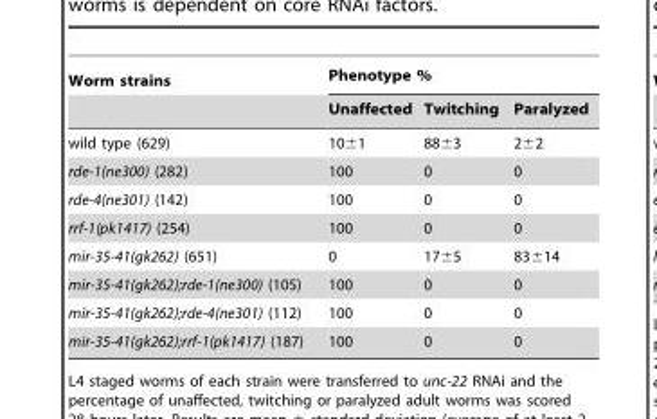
<table><thead><tr><td rowspan="2">Worm strains</td><td colspan="3">Phenotype %</td></tr><tr><td>Unaffected</td><td>Twitching</td><td>Paralyzed</td></tr></thead><tbody><tr><td>wild type (629)</td><td>10±1</td><td>88±3</td><td>2±2</td></tr><tr><td>rde-1(ne300) (282)</td><td>100</td><td>0</td><td>0</td></tr><tr><td>rde-4(ne301) (142)</td><td>100</td><td>0</td><td>0</td></tr><tr><td>rrf-1(pk1417) (254)</td><td>100</td><td>0</td><td>0</td></tr><tr><td>mir-35-41(gk262) (651)</td><td>0</td><td>17±5</td><td>83±14</td></tr><tr><td>mir-35-41(gk262);rde-1(ne300) (105)</td><td>100</td><td>0</td><td>0</td></tr><tr><td>mir-35-41(gk262);rde-4(ne301) (112)</td><td>100</td><td>0</td><td>0</td></tr><tr><td>mir-35-41(gk262);rrf-1(pk1417) (187)</td><td>100</td><td>0</td><td>0</td></tr></tbody></table>